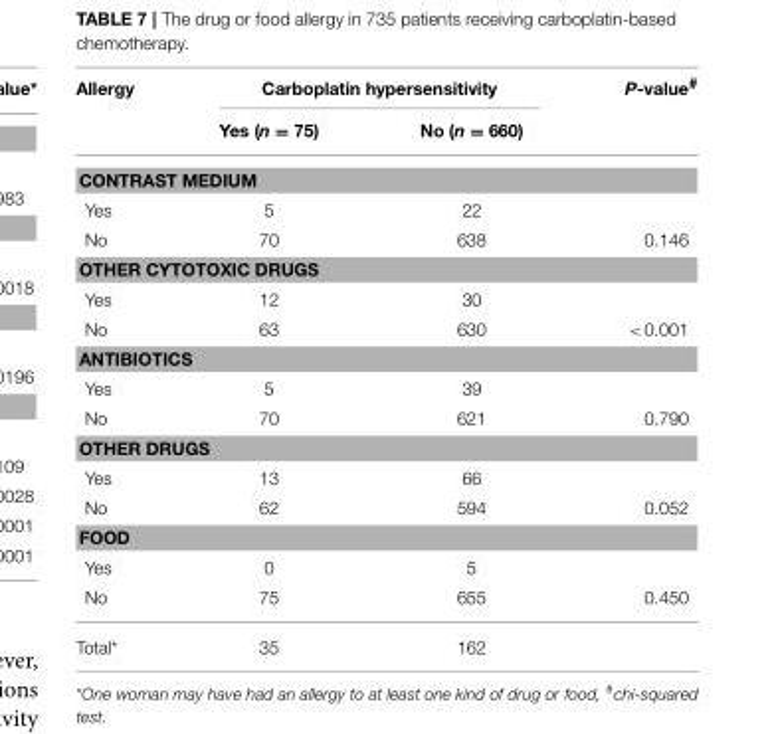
<table><thead><tr><td rowspan="2">Allergy</td><td colspan="2">Carboplatin hypersensitivity</td><td rowspan="2">P-value<sup>#</sup></td></tr><tr><td>Yes (n = 75)</td><td>No (n = 660)</td></tr></thead><tbody><tr><td colspan="4">CONTRAST MEDIUM</td></tr><tr><td>Yes</td><td>5</td><td>22</td><td></td></tr><tr><td>No</td><td>70</td><td>638</td><td>0.146</td></tr><tr><td colspan="4">OTHER CYTOTOXIC DRUGS</td></tr><tr><td>Yes</td><td>12</td><td>30</td><td></td></tr><tr><td>No</td><td>63</td><td>630</td><td>&lt;0.001</td></tr><tr><td colspan="4">ANTIBIOTICS</td></tr><tr><td>Yes</td><td>5</td><td>39</td><td></td></tr><tr><td>No</td><td>70</td><td>621</td><td>0.790</td></tr><tr><td colspan="4">OTHER DRUGS</td></tr><tr><td>Yes</td><td>13</td><td>66</td><td></td></tr><tr><td>No</td><td>62</td><td>594</td><td>0.052</td></tr><tr><td colspan="4">FOOD</td></tr><tr><td>Yes</td><td>0</td><td>5</td><td></td></tr><tr><td>No</td><td>75</td><td>655</td><td>0.450</td></tr><tr><td>Total*</td><td>35</td><td>162</td><td></td></tr></tbody></table>